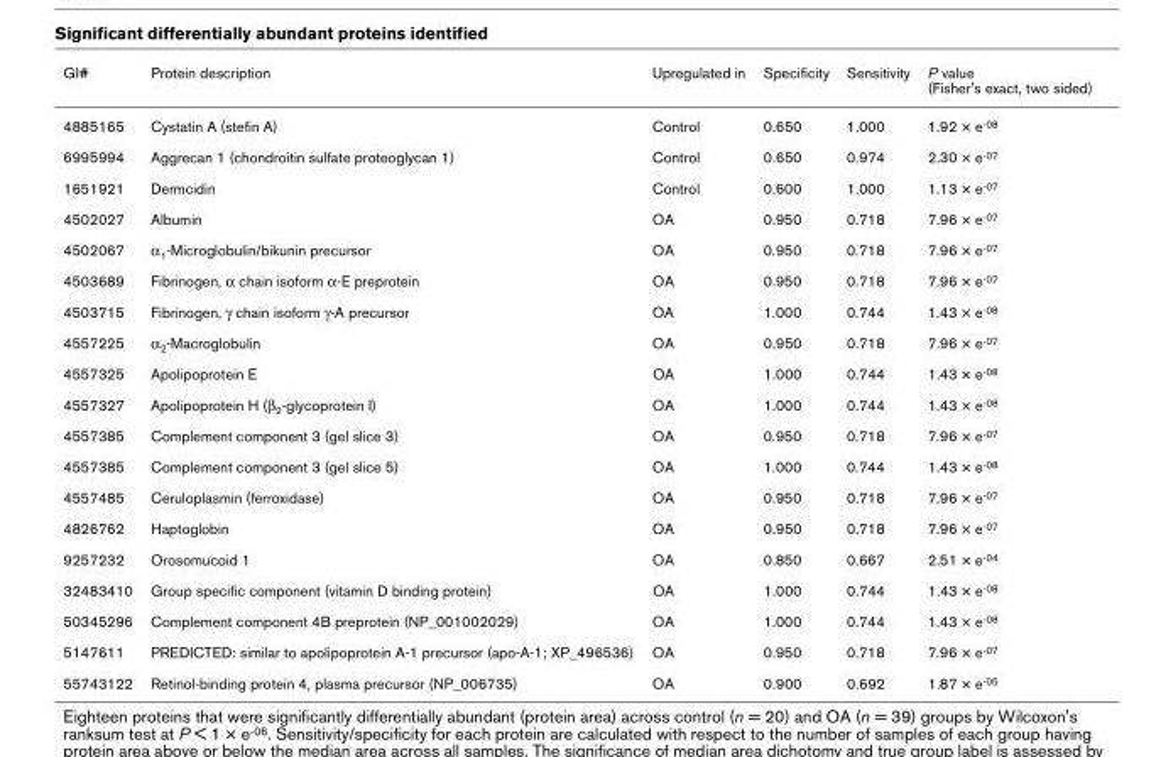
<table><thead><tr><td>GI#</td><td>Protein description</td><td>Upregulated in</td><td>Specificity</td><td>Sensitivity</td><td>P value (Fisher&#x27;s exact, two sided)</td></tr></thead><tbody><tr><td>4885165</td><td>Cystatin A (stefin A)</td><td>Control</td><td>0.650</td><td>1.000</td><td>1.92 × e<sup>-08</sup></td></tr><tr><td>6995994</td><td>Aggrecan 1 (chondroitin sulfate proteoglycan 1)</td><td>Control</td><td>0.650</td><td>0.974</td><td>2.30 × e<sup>-07</sup></td></tr><tr><td>1651921</td><td>Dermcidin</td><td>Control</td><td>0.600</td><td>1.000</td><td>1.13 × e<sup>-07</sup></td></tr><tr><td>4502027</td><td>Albumin</td><td>OA</td><td>0.950</td><td>0.718</td><td>7.96 × e<sup>-07</sup></td></tr><tr><td>4502067</td><td>α<sub>1</sub>-Microglobulin/bikunin precursor</td><td>OA</td><td>0.950</td><td>0.718</td><td>7.96 × e<sup>-07</sup></td></tr><tr><td>4503689</td><td>Fibrinogen, α chain isoform α-E preprotein</td><td>OA</td><td>0.950</td><td>0.718</td><td>7.96 × e<sup>-07</sup></td></tr><tr><td>4503715</td><td>Fibrinogen, γ chain isoform γ-A precursor</td><td>OA</td><td>1.000</td><td>0.744</td><td>1.43 × e<sup>-08</sup></td></tr><tr><td>4557225</td><td>α<sub>2</sub>-Macroglobulin</td><td>OA</td><td>0.950</td><td>0.718</td><td>7.96 × e<sup>-07</sup></td></tr><tr><td>4557325</td><td>Apolipoprotein E</td><td>OA</td><td>1.000</td><td>0.744</td><td>1.43 × e<sup>-08</sup></td></tr><tr><td>4557327</td><td>Apolipoprotein H (β<sub>2</sub>-glycoprotein I)</td><td>OA</td><td>1.000</td><td>0.744</td><td>1.43 × e<sup>-08</sup></td></tr><tr><td>4557385</td><td>Complement component 3 (gel slice 3)</td><td>OA</td><td>0.950</td><td>0.718</td><td>7.96 × e<sup>-07</sup></td></tr><tr><td>4557385</td><td>Complement component 3 (gel slice 5)</td><td>OA</td><td>1.000</td><td>0.744</td><td>1.43 × e<sup>-08</sup></td></tr><tr><td>4557485</td><td>Ceruloplasmin (ferroxidase)</td><td>OA</td><td>0.950</td><td>0.718</td><td>7.96 × e<sup>-07</sup></td></tr><tr><td>4826762</td><td>Haptoglobin</td><td>OA</td><td>0.950</td><td>0.718</td><td>7.96 × e<sup>-07</sup></td></tr><tr><td>9257232</td><td>Orosomucoid 1</td><td>OA</td><td>0.850</td><td>0.667</td><td>2.51 × e<sup>-04</sup></td></tr><tr><td>32483410</td><td>Group specific component (vitamin D binding protein)</td><td>OA</td><td>1.000</td><td>0.744</td><td>1.43 × e<sup>-08</sup></td></tr><tr><td>50345296</td><td>Complement component 4B preprotein (NP_001002029)</td><td>OA</td><td>1.000</td><td>0.744</td><td>1.43 × e<sup>-08</sup></td></tr><tr><td>5147611</td><td>PREDICTED: similar to apolipoprotein A-1 precursor (apo-A-1; XP_496536)</td><td>OA</td><td>0.950</td><td>0.718</td><td>7.96 × e<sup>-07</sup></td></tr><tr><td>55743122</td><td>Retinol-binding protein 4, plasma precursor (NP_006735)</td><td>OA</td><td>0.900</td><td>0.692</td><td>1.87 × e<sup>-05</sup></td></tr></tbody></table>